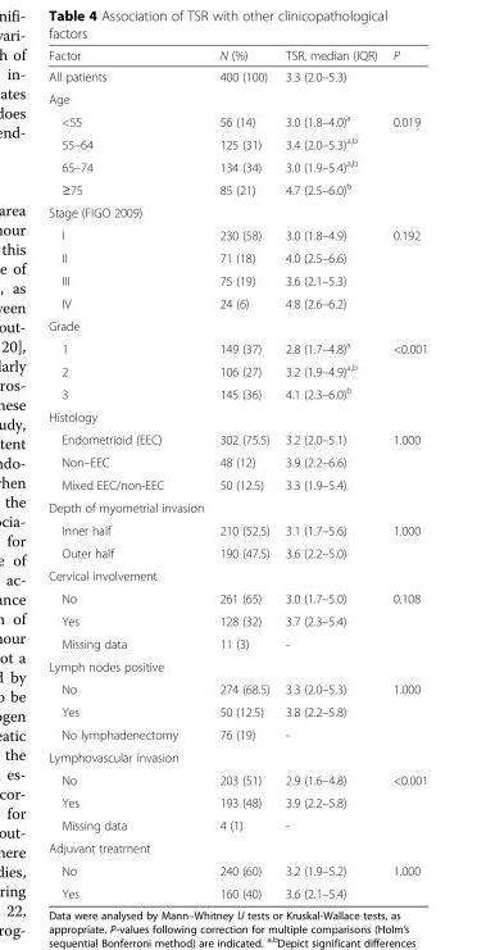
<table><thead><tr><td>Factor</td><td>N (%)</td><td>TSR, median (IQR)</td><td>P</td></tr></thead><tbody><tr><td>All patients</td><td>400 (100)</td><td>3.3 (2.0–5.3)</td><td></td></tr><tr><td colspan="4">Age</td></tr><tr><td>&lt;55</td><td>56 (14)</td><td>3.0 (1.8–4.0)<sup>a</sup></td><td>0.019</td></tr><tr><td>55–64</td><td>125 (31)</td><td>3.4 (2.0–5.3)<sup>a,b</sup></td><td></td></tr><tr><td>65–74</td><td>134 (34)</td><td>3.0 (1.9–5.4)<sup>a,b</sup></td><td></td></tr><tr><td>≥75</td><td>85 (21)</td><td>4.7 (2.5–6.0)<sup>b</sup></td><td></td></tr><tr><td colspan="4">Stage (FIGO 2009)</td></tr><tr><td>I</td><td>230 (58)</td><td>3.0 (1.8–4.9)</td><td>0.192</td></tr><tr><td>II</td><td>71 (18)</td><td>4.0 (2.5–6.6)</td><td></td></tr><tr><td>III</td><td>75 (19)</td><td>3.6 (2.1–5.3)</td><td></td></tr><tr><td>IV</td><td>24 (6)</td><td>4.8 (2.6–6.2)</td><td></td></tr><tr><td colspan="4">Grade</td></tr><tr><td>1</td><td>149 (37)</td><td>2.8 (1.7–4.8)<sup>a</sup></td><td>&lt;0.001</td></tr><tr><td>2</td><td>106 (27)</td><td>3.2 (1.9–4.9)<sup>a,b</sup></td><td></td></tr><tr><td>3</td><td>145 (36)</td><td>4.1 (2.3–6.0)<sup>b</sup></td><td></td></tr><tr><td colspan="4">Histology</td></tr><tr><td>Endometrioid (EEC)</td><td>302 (75.5)</td><td>3.2 (2.0–5.1)</td><td>1.000</td></tr><tr><td>Non–EEC</td><td>48 (12)</td><td>3.9 (2.2–6.6)</td><td></td></tr><tr><td>Mixed EEC/non-EEC</td><td>50 (12.5)</td><td>3.3 (1.9–5.4)</td><td></td></tr><tr><td colspan="4">Depth of myometrial invasion</td></tr><tr><td>Inner half</td><td>210 (52.5)</td><td>3.1 (1.7–5.6)</td><td>1.000</td></tr><tr><td>Outer half</td><td>190 (47.5)</td><td>3.6 (2.2–5.0)</td><td></td></tr><tr><td colspan="4">Cervical involvement</td></tr><tr><td>No</td><td>261 (65)</td><td>3.0 (1.7–5.0)</td><td>0.108</td></tr><tr><td>Yes</td><td>128 (32)</td><td>3.7 (2.3–5.4)</td><td></td></tr><tr><td>Missing data</td><td>11 (3)</td><td>-</td><td></td></tr><tr><td colspan="4">Lymph nodes positive</td></tr><tr><td>No</td><td>274 (68.5)</td><td>3.3 (2.0–5.3)</td><td>1.000</td></tr><tr><td>Yes</td><td>50 (12.5)</td><td>3.8 (2.2–5.8)</td><td></td></tr><tr><td>No lymphadenectomy</td><td>76 (19)</td><td>-</td><td></td></tr><tr><td colspan="4">Lymphovascular invasion</td></tr><tr><td>No</td><td>203 (51)</td><td>2.9 (1.6–4.8)</td><td>&lt;0.001</td></tr><tr><td>Yes</td><td>193 (48)</td><td>3.9 (2.2–5.8)</td><td></td></tr><tr><td>Missing data</td><td>4 (1)</td><td>-</td><td></td></tr><tr><td colspan="4">Adjuvant treatment</td></tr><tr><td>No</td><td>240 (60)</td><td>3.2 (1.9–5.2)</td><td>1.000</td></tr><tr><td>Yes</td><td>160 (40)</td><td>3.6 (2.1–5.4)</td><td></td></tr></tbody></table>